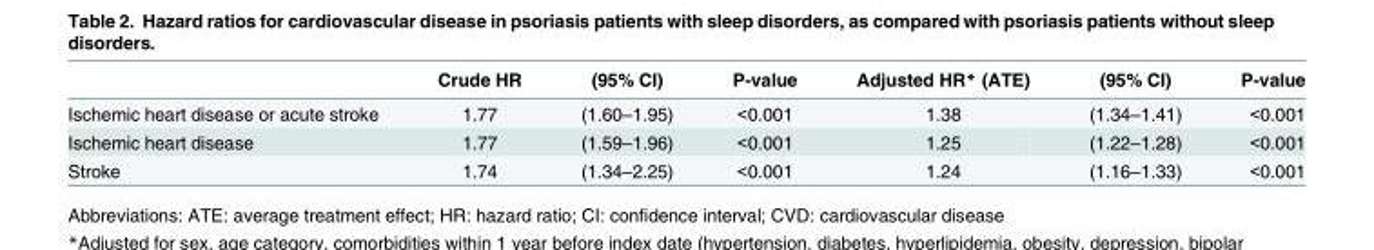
<table><thead><tr><td></td><td>Crude HR</td><td>(95% CI)</td><td>P-value</td><td>Adjusted HR* (ATE)</td><td>(95% CI)</td><td>P-value</td></tr></thead><tbody><tr><td>Ischemic heart disease or acute stroke</td><td>1.77</td><td>(1.60–1.95)</td><td>&lt;0.001</td><td>1.38</td><td>(1.34–1.41)</td><td>&lt;0.001</td></tr><tr><td>Ischemic heart disease</td><td>1.77</td><td>(1.59–1.96)</td><td>&lt;0.001</td><td>1.25</td><td>(1.22–1.28)</td><td>&lt;0.001</td></tr><tr><td>Stroke</td><td>1.74</td><td>(1.34–2.25)</td><td>&lt;0.001</td><td>1.24</td><td>(1.16–1.33)</td><td>&lt;0.001</td></tr></tbody></table>